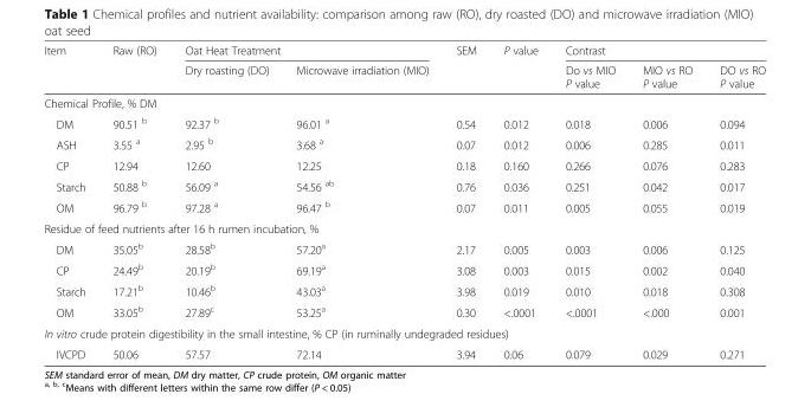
<table><thead><tr><td rowspan="2">Item</td><td rowspan="2">Raw (RO)</td><td colspan="2">Oat Heat Treatment</td><td rowspan="2">SEM</td><td rowspan="2">P value</td><td colspan="3">Contrast</td></tr><tr><td>Dry roasting (DO)</td><td>Microwave irradiation (MIO)</td><td>Do vs MIO P value</td><td>MIO vs RO P value</td><td>DO vs RO P value</td></tr></thead><tbody><tr><td colspan="9">Chemical Profile, % DM</td></tr><tr><td>DM</td><td>90.51 <sup>b</sup></td><td>92.37 <sup>b</sup></td><td>96.01 <sup>a</sup></td><td>0.54</td><td>0.012</td><td>0.018</td><td>0.006</td><td>0.094</td></tr><tr><td>ASH</td><td>3.55 <sup>a</sup></td><td>2.95 <sup>b</sup></td><td>3.68 <sup>a</sup></td><td>0.07</td><td>0.012</td><td>0.006</td><td>0.285</td><td>0.011</td></tr><tr><td>CP</td><td>12.94</td><td>12.60</td><td>12.25</td><td>0.18</td><td>0.160</td><td>0.266</td><td>0.076</td><td>0.283</td></tr><tr><td>Starch</td><td>50.88 <sup>b</sup></td><td>56.09 <sup>a</sup></td><td>54.56 <sup>ab</sup></td><td>0.76</td><td>0.036</td><td>0.251</td><td>0.042</td><td>0.017</td></tr><tr><td>OM</td><td>96.79 <sup>b</sup></td><td>97.28 <sup>a</sup></td><td>96.47 <sup>b</sup></td><td>0.07</td><td>0.011</td><td>0.005</td><td>0.055</td><td>0.019</td></tr><tr><td colspan="9">Residue of feed nutrients after 16 h rumen incubation, %</td></tr><tr><td>DM</td><td>35.05<sup>b</sup></td><td>28.58<sup>b</sup></td><td>57.20<sup>a</sup></td><td>2.17</td><td>0.005</td><td>0.003</td><td>0.006</td><td>0.125</td></tr><tr><td>CP</td><td>24.49<sup>b</sup></td><td>20.19<sup>b</sup></td><td>69.19<sup>a</sup></td><td>3.08</td><td>0.003</td><td>0.015</td><td>0.002</td><td>0.040</td></tr><tr><td>Starch</td><td>17.21<sup>b</sup></td><td>10.46<sup>b</sup></td><td>43.03<sup>a</sup></td><td>3.98</td><td>0.019</td><td>0.010</td><td>0.018</td><td>0.308</td></tr><tr><td>OM</td><td>33.05<sup>b</sup></td><td>27.89<sup>c</sup></td><td>53.25<sup>a</sup></td><td>0.30</td><td>&lt;.0001</td><td>&lt;.0001</td><td>&lt;.000</td><td>0.001</td></tr><tr><td colspan="9">In vitro crude protein digestibility in the small intestine, % CP (in ruminally undegraded residues)</td></tr><tr><td>IVCPD</td><td>50.06</td><td>57.57</td><td>72.14</td><td>3.94</td><td>0.06</td><td>0.079</td><td>0.029</td><td>0.271</td></tr></tbody></table>